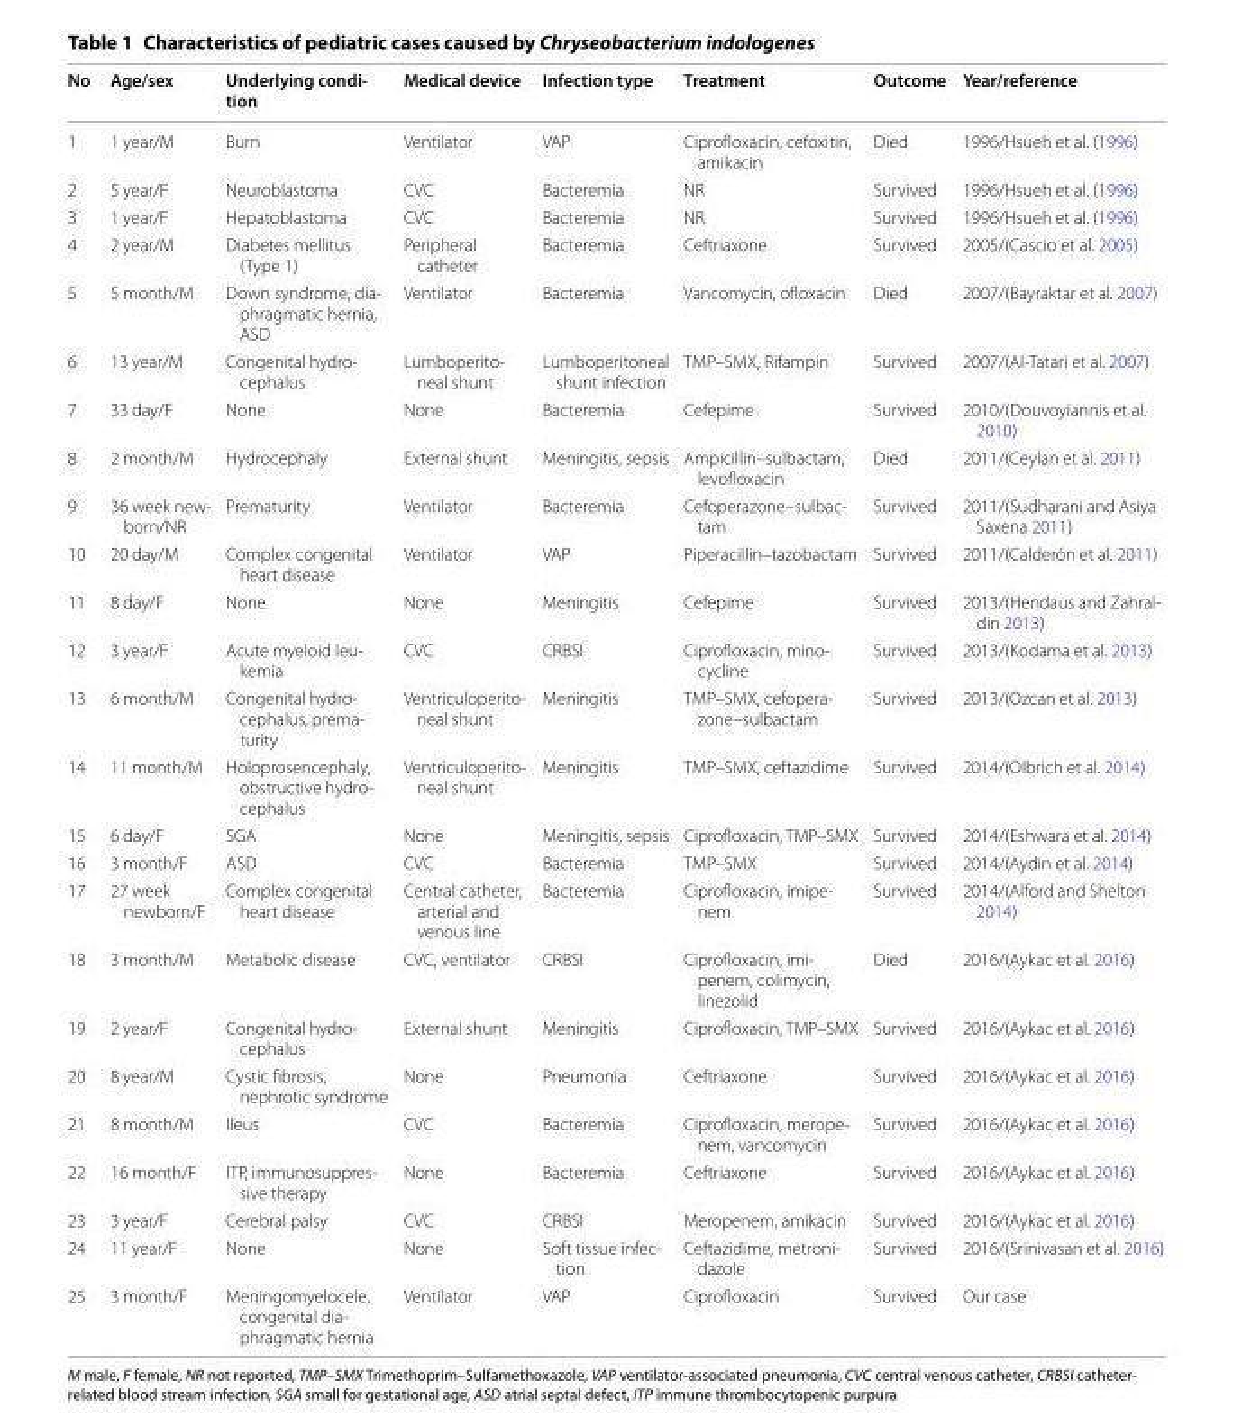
<table><thead><tr><td>No</td><td>Age/sex</td><td>Underlying condi- tion</td><td>Medical device</td><td>Infection type</td><td>Treatment</td><td>Outcome</td><td>Year/reference</td></tr></thead><tbody><tr><td>1</td><td>1 year/M</td><td>Burn</td><td>Ventilator</td><td>VAP</td><td>Ciprofloxacin, cefoxitin, amikacin</td><td>Died</td><td>1996/Hsueh et al. (1996)</td></tr><tr><td>2</td><td>5 year/F</td><td>Neuroblastoma</td><td>CVC</td><td>Bacteremia</td><td>NR</td><td>Survived</td><td>1996/Hsueh et al. (1996)</td></tr><tr><td>3</td><td>1 year/F</td><td>Hepatoblastoma</td><td>CVC</td><td>Bacteremia</td><td>NR</td><td>Survived</td><td>1996/Hsueh et al. (1996)</td></tr><tr><td>4</td><td>2 year/M</td><td>Diabetes mellitus (Type 1)</td><td>Peripheral catheter</td><td>Bacteremia</td><td>Ceftriaxone</td><td>Survived</td><td>2005/(Cascio et al. 2005)</td></tr><tr><td>5</td><td>5 month/M</td><td>Down syndrome, dia- phragmatic hernia, ASD</td><td>Ventilator</td><td>Bacteremia</td><td>Vancomycin, ofloxacin</td><td>Died</td><td>2007/(Bayraktar et al. 2007)</td></tr><tr><td>6</td><td>13 year/M</td><td>Congenital hydro- cephalus</td><td>Lumboperito- neal shunt</td><td>Lumboperitoneal shunt infection</td><td>TMP–SMX, Rifampin</td><td>Survived</td><td>2007/(Al-Tatari et al. 2007)</td></tr><tr><td>7</td><td>33 day/F</td><td>None</td><td>None</td><td>Bacteremia</td><td>Cefepime</td><td>Survived</td><td>2010/(Douvoyiannis et al. 2010)</td></tr><tr><td>8</td><td>2 month/M</td><td>Hydrocephaly</td><td>External shunt</td><td>Meningitis, sepsis</td><td>Ampicillin–sulbactam, levofloxacin</td><td>Died</td><td>2011/(Ceylan et al. 2011)</td></tr><tr><td>9</td><td>36 week new- born/NR</td><td>Prematurity</td><td>Ventilator</td><td>Bacteremia</td><td>Cefoperazone–sulbac- tam</td><td>Survived</td><td>2011/(Sudharani and Asiya Saxena 2011)</td></tr><tr><td>10</td><td>20 day/M</td><td>Complex congenital heart disease</td><td>Ventilator</td><td>VAP</td><td>Piperacillin–tazobactam</td><td>Survived</td><td>2011/(Calderón et al. 2011)</td></tr><tr><td>11</td><td>8 day/F</td><td>None</td><td>None</td><td>Meningitis</td><td>Cefepime</td><td>Survived</td><td>2013/(Hendaus and Zahral- din 2013)</td></tr><tr><td>12</td><td>3 year/F</td><td>Acute myeloid leu- kemia</td><td>CVC</td><td>CRBSI</td><td>Ciprofloxacin, mino- cycline</td><td>Survived</td><td>2013/(Kodama et al. 2013)</td></tr><tr><td>13</td><td>6 month/M</td><td>Congenital hydro- cephalus, prema- turity</td><td>Ventriculoperito- neal shunt</td><td>Meningitis</td><td>TMP–SMX, cefopera- zone–sulbactam</td><td>Survived</td><td>2013/(Ozcan et al. 2013)</td></tr><tr><td>14</td><td>11 month/M</td><td>Holoprosencephaly, obstructive hydro- cephalus</td><td>Ventriculoperito- neal shunt</td><td>Meningitis</td><td>TMP–SMX, ceftazidime</td><td>Survived</td><td>2014/(Olbrich et al. 2014)</td></tr><tr><td>15</td><td>6 day/F</td><td>SGA</td><td>None</td><td>Meningitis, sepsis</td><td>Ciprofloxacin, TMP–SMX</td><td>Survived</td><td>2014/(Eshwara et al. 2014)</td></tr><tr><td>16</td><td>3 month/F</td><td>ASD</td><td>CVC</td><td>Bacteremia</td><td>TMP–SMX</td><td>Survived</td><td>2014/(Aydin et al. 2014)</td></tr><tr><td>17</td><td>27 week newborn/F</td><td>Complex congenital heart disease</td><td>Central catheter, arterial and venous line</td><td>Bacteremia</td><td>Ciprofloxacin, imipe- nem</td><td>Survived</td><td>2014/(Alford and Shelton 2014)</td></tr><tr><td>18</td><td>3 month/M</td><td>Metabolic disease</td><td>CVC, ventilator</td><td>CRBSI</td><td>Ciprofloxacin, imi- penem, colimycin, linezolid</td><td>Died</td><td>2016/(Aykac et al. 2016)</td></tr><tr><td>19</td><td>2 year/F</td><td>Congenital hydro- cephalus</td><td>External shunt</td><td>Meningitis</td><td>Ciprofloxacin, TMP–SMX</td><td>Survived</td><td>2016/(Aykac et al. 2016)</td></tr><tr><td>20</td><td>8 year/M</td><td>Cystic fibrosis, nephrotic syndrome</td><td>None</td><td>Pneumonia</td><td>Ceftriaxone</td><td>Survived</td><td>2016/(Aykac et al. 2016)</td></tr><tr><td>21</td><td>8 month/M</td><td>Ileus</td><td>CVC</td><td>Bacteremia</td><td>Ciprofloxacin, merope- nem, vancomycin</td><td>Survived</td><td>2016/(Aykac et al. 2016)</td></tr><tr><td>22</td><td>16 month/F</td><td>ITP, immunosuppres- sive therapy</td><td>None</td><td>Bacteremia</td><td>Ceftriaxone</td><td>Survived</td><td>2016/(Aykac et al. 2016)</td></tr><tr><td>23</td><td>3 year/F</td><td>Cerebral palsy</td><td>CVC</td><td>CRBSI</td><td>Meropenem, amikacin</td><td>Survived</td><td>2016/(Aykac et al. 2016)</td></tr><tr><td>24</td><td>11 year/F</td><td>None</td><td>None</td><td>Soft tissue infec- tion</td><td>Ceftazidime, metroni- dazole</td><td>Survived</td><td>2016/(Srinivasan et al. 2016)</td></tr><tr><td>25</td><td>3 month/F</td><td>Meningomyelocele, congenital dia- phragmatic hernia</td><td>Ventilator</td><td>VAP</td><td>Ciprofloxacin</td><td>Survived</td><td>Our case</td></tr></tbody></table>